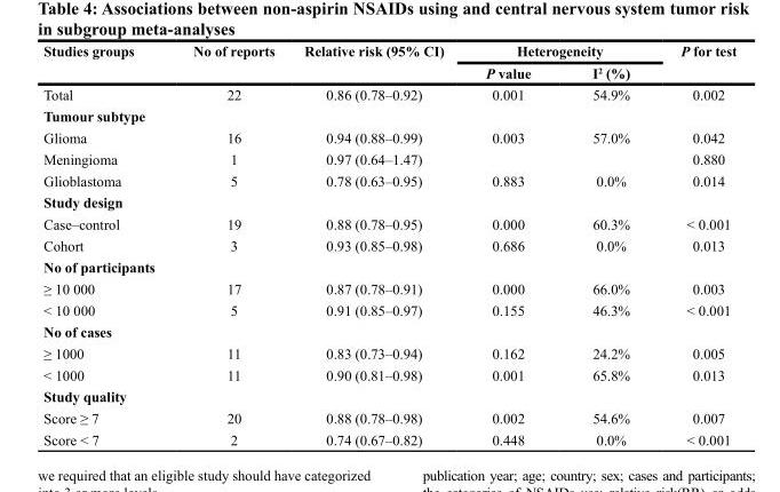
<table><thead><tr><td rowspan="2">Studies groups</td><td rowspan="2">No of reports</td><td rowspan="2">Relative risk (95% CI)</td><td colspan="2">Heterogeneity</td><td rowspan="2">P for test</td></tr><tr><td>P value</td><td>I<sup>2</sup> (%)</td></tr></thead><tbody><tr><td>Total</td><td>22</td><td>0.86 (0.78–0.92)</td><td>0.001</td><td>54.9%</td><td>0.002</td></tr><tr><td colspan="6">Tumour subtype</td></tr><tr><td>Glioma</td><td>16</td><td>0.94 (0.88–0.99)</td><td>0.003</td><td>57.0%</td><td>0.042</td></tr><tr><td>Meningioma</td><td>1</td><td>0.97 (0.64–1.47)</td><td></td><td></td><td>0.880</td></tr><tr><td>Glioblastoma</td><td>5</td><td>0.78 (0.63–0.95)</td><td>0.883</td><td>0.0%</td><td>0.014</td></tr><tr><td colspan="6">Study design</td></tr><tr><td>Case–control</td><td>19</td><td>0.88 (0.78–0.95)</td><td>0.000</td><td>60.3%</td><td>&lt; 0.001</td></tr><tr><td>Cohort</td><td>3</td><td>0.93 (0.85–0.98)</td><td>0.686</td><td>0.0%</td><td>0.013</td></tr><tr><td colspan="6">No of participants</td></tr><tr><td>≥ 10 000</td><td>17</td><td>0.87 (0.78–0.91)</td><td>0.000</td><td>66.0%</td><td>0.003</td></tr><tr><td>&lt; 10 000</td><td>5</td><td>0.91 (0.85–0.97)</td><td>0.155</td><td>46.3%</td><td>&lt; 0.001</td></tr><tr><td colspan="6">No of cases</td></tr><tr><td>≥ 1000</td><td>11</td><td>0.83 (0.73–0.94)</td><td>0.162</td><td>24.2%</td><td>0.005</td></tr><tr><td>&lt; 1000</td><td>11</td><td>0.90 (0.81–0.98)</td><td>0.001</td><td>65.8%</td><td>0.013</td></tr><tr><td colspan="6">Study quality</td></tr><tr><td>Score ≥ 7</td><td>20</td><td>0.88 (0.78–0.98)</td><td>0.002</td><td>54.6%</td><td>0.007</td></tr><tr><td>Score &lt; 7</td><td>2</td><td>0.74 (0.67–0.82)</td><td>0.448</td><td>0.0%</td><td>&lt; 0.001</td></tr></tbody></table>